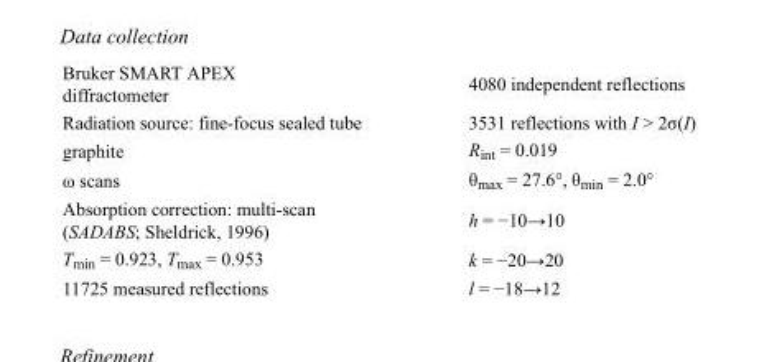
<table><tbody><tr><td>Bruker SMART APEX diffractometer</td><td>4080 independent reflections</td></tr><tr><td>Radiation source: fine-focus sealed tube</td><td>3531 reflections with I &gt; 2σ(I)</td></tr><tr><td>graphite</td><td>R<sub>int</sub> = 0.019</td></tr><tr><td>ω scans</td><td>θ<sub>max</sub> = 27.6°, θ<sub>min</sub> = 2.0°</td></tr><tr><td>Absorption correction: multi-scan (SADABS; Sheldrick, 1996)</td><td>h = −10→10</td></tr><tr><td>T<sub>min</sub> = 0.923, T<sub>max</sub> = 0.953</td><td>k = −20→20</td></tr><tr><td>11725 measured reflections</td><td>l = −18→12</td></tr></tbody></table>